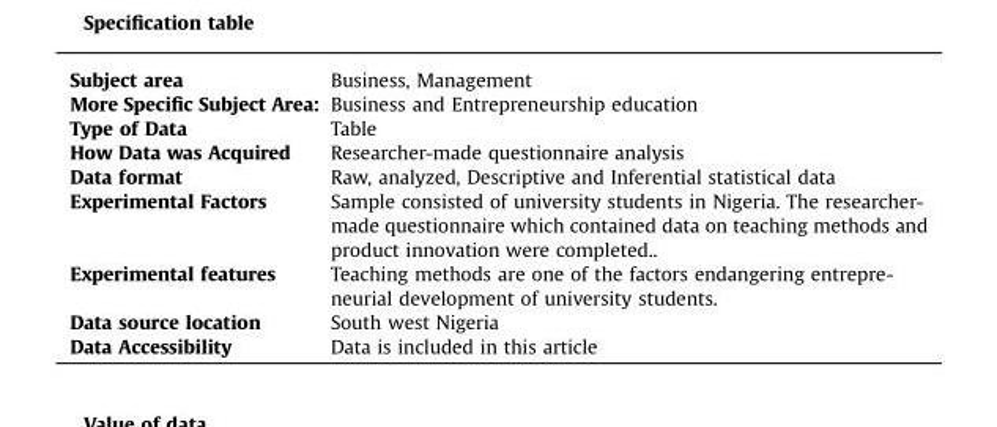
<table><tbody><tr><td>Subject area</td><td>Business, Management</td></tr><tr><td>More Specific Subject Area:</td><td>Business and Entrepreneurship education</td></tr><tr><td>Type of Data</td><td>Table</td></tr><tr><td>How Data was Acquired</td><td>Researcher-made questionnaire analysis</td></tr><tr><td>Data format</td><td>Raw, analyzed, Descriptive and Inferential statistical data</td></tr><tr><td>Experimental Factors</td><td>Sample consisted of university students in Nigeria. The researcher- made questionnaire which contained data on teaching methods and product innovation were completed..</td></tr><tr><td>Experimental features</td><td>Teaching methods are one of the factors endangering entrepre- neurial development of university students.</td></tr><tr><td>Data source location</td><td>South west Nigeria</td></tr><tr><td>Data Accessibility</td><td>Data is included in this article</td></tr></tbody></table>